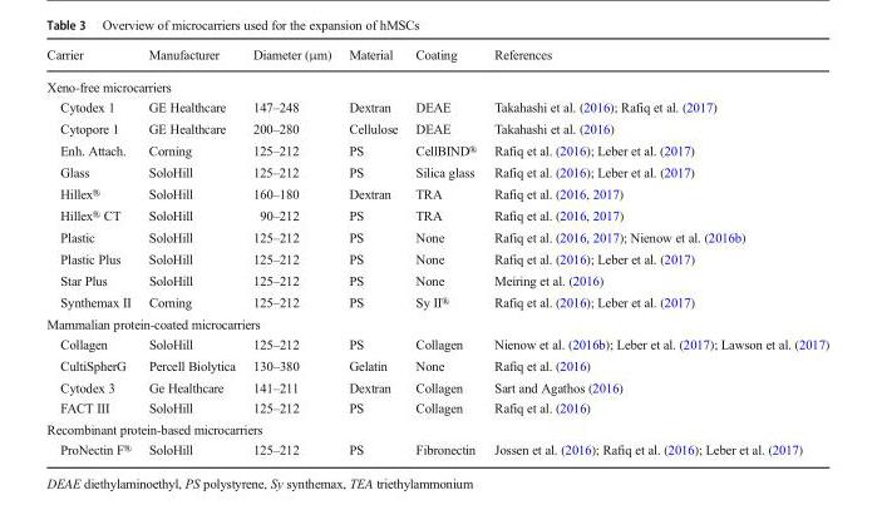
<table><thead><tr><td>Carrier</td><td>Manufacturer</td><td>Diameter (μm)</td><td>Material</td><td>Coating</td><td>References</td></tr></thead><tbody><tr><td colspan="6">Xeno-free microcarriers</td></tr><tr><td>Cytodex 1</td><td>GE Healthcare</td><td>147–248</td><td>Dextran</td><td>DEAE</td><td>Takahashi et al. (2016); Rafiq et al. (2017)</td></tr><tr><td>Cytopore 1</td><td>GE Healthcare</td><td>200–280</td><td>Cellulose</td><td>DEAE</td><td>Takahashi et al. (2016)</td></tr><tr><td>Enh. Attach.</td><td>Corning</td><td>125–212</td><td>PS</td><td>CellBIND®</td><td>Rafiq et al. (2016); Leber et al. (2017)</td></tr><tr><td>Glass</td><td>SoloHill</td><td>125–212</td><td>PS</td><td>Silica glass</td><td>Rafiq et al. (2016); Leber et al. (2017)</td></tr><tr><td>Hillex®</td><td>SoloHill</td><td>160–180</td><td>Dextran</td><td>TRA</td><td>Rafiq et al. (2016, 2017)</td></tr><tr><td>Hillex® CT</td><td>SoloHill</td><td>90–212</td><td>PS</td><td>TRA</td><td>Rafiq et al. (2016, 2017)</td></tr><tr><td>Plastic</td><td>SoloHill</td><td>125–212</td><td>PS</td><td>None</td><td>Rafiq et al. (2016, 2017); Nienow et al. (2016b)</td></tr><tr><td>Plastic Plus</td><td>SoloHill</td><td>125–212</td><td>PS</td><td>None</td><td>Rafiq et al. (2016); Leber et al. (2017)</td></tr><tr><td>Star Plus</td><td>SoloHill</td><td>125–212</td><td>PS</td><td>None</td><td>Meiring et al. (2016)</td></tr><tr><td>Synthemax II</td><td>Corning</td><td>125–212</td><td>PS</td><td>Sy II®</td><td>Rafiq et al. (2016); Leber et al. (2017)</td></tr><tr><td colspan="6">Mammalian protein-coated microcarriers</td></tr><tr><td>Collagen</td><td>SoloHill</td><td>125–212</td><td>PS</td><td>Collagen</td><td>Nienow et al. (2016b); Leber et al. (2017); Lawson et al. (2017)</td></tr><tr><td>CultiSpherG</td><td>Percell Biolytica</td><td>130–380</td><td>Gelatin</td><td>None</td><td>Rafiq et al. (2016)</td></tr><tr><td>Cytodex 3</td><td>Ge Healthcare</td><td>141–211</td><td>Dextran</td><td>Collagen</td><td>Sart and Agathos (2016)</td></tr><tr><td>FACT III</td><td>SoloHill</td><td>125–212</td><td>PS</td><td>Collagen</td><td>Rafiq et al. (2016)</td></tr><tr><td colspan="6">Recombinant protein-based microcarriers</td></tr><tr><td>ProNectin F®</td><td>SoloHill</td><td>125–212</td><td>PS</td><td>Fibronectin</td><td>Jossen et al. (2016); Rafiq et al. (2016); Leber et al. (2017)</td></tr></tbody></table>